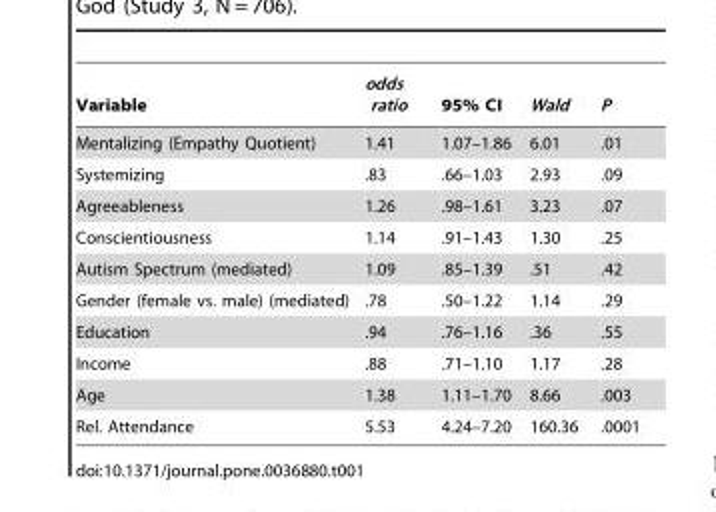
<table><thead><tr><td>Variable</td><td>odds ratio</td><td>95% CI</td><td>Wald</td><td>P</td></tr></thead><tbody><tr><td>Mentalizing (Empathy Quotient)</td><td>1.41</td><td>1.07–1.86</td><td>6.01</td><td>.01</td></tr><tr><td>Systemizing</td><td>.83</td><td>.66–1.03</td><td>2.93</td><td>.09</td></tr><tr><td>Agreeableness</td><td>1.26</td><td>.98–1.61</td><td>3.23</td><td>.07</td></tr><tr><td>Conscientiousness</td><td>1.14</td><td>.91–1.43</td><td>1.30</td><td>.25</td></tr><tr><td>Autism Spectrum (mediated)</td><td>1.09</td><td>.85–1.39</td><td>.51</td><td>.42</td></tr><tr><td>Gender (female vs. male) (mediated)</td><td>.78</td><td>.50–1.22</td><td>1.14</td><td>.29</td></tr><tr><td>Education</td><td>.94</td><td>.76–1.16</td><td>.36</td><td>.55</td></tr><tr><td>Income</td><td>.88</td><td>.71–1.10</td><td>1.17</td><td>.28</td></tr><tr><td>Age</td><td>1.38</td><td>1.11–1.70</td><td>8.66</td><td>.003</td></tr><tr><td>Rel. Attendance</td><td>5.53</td><td>4.24–7.20</td><td>160.36</td><td>.0001</td></tr></tbody></table>